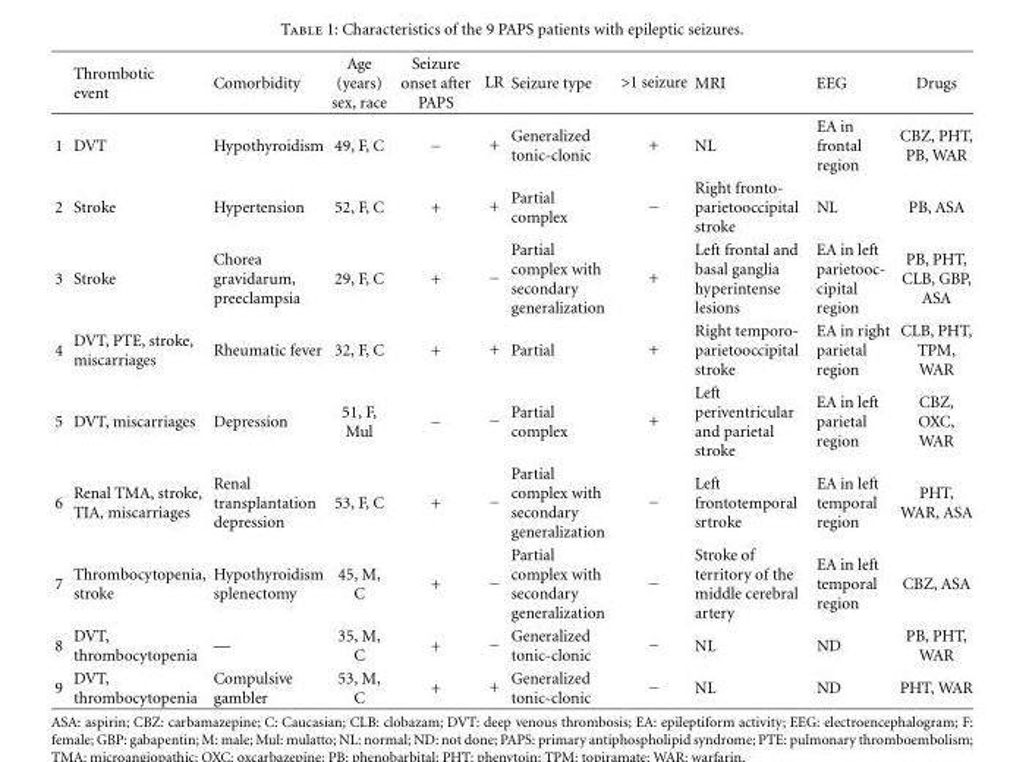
<table><thead><tr><td></td><td>Thrombotic event</td><td>Comorbidity</td><td>Age (years) sex, race</td><td>Seizure onset after PAPS</td><td>LR</td><td>Seizure type</td><td>&gt;1 seizure</td><td>MRI</td><td>EEG</td><td>Drugs</td></tr></thead><tbody><tr><td>1</td><td>DVT</td><td>Hypothyroidism</td><td>49, F, C</td><td>−</td><td>+</td><td>Generalized tonic-clonic</td><td>+</td><td>NL</td><td>EA in frontal region</td><td>CBZ, PHT, PB, WAR</td></tr><tr><td>2</td><td>Stroke</td><td>Hypertension</td><td>52, F, C</td><td>+</td><td>+</td><td>Partial complex</td><td>−</td><td>Right fronto- parietooccipital stroke</td><td>NL</td><td>PB, ASA</td></tr><tr><td>3</td><td>Stroke</td><td>Chorea gravidarum, preeclampsia</td><td>29, F, C</td><td>+</td><td>−</td><td>Partial complex with secondary generalization</td><td>+</td><td>Left frontal and basal ganglia hyperintense lesions</td><td>EA in left parietooc- cipital region</td><td>PB, PHT, CLB, GBP, ASA</td></tr><tr><td>4</td><td>DVT, PTE, stroke, miscarriages</td><td>Rheumatic fever</td><td>32, F, C</td><td>+</td><td>+</td><td>Partial</td><td>+</td><td>Right temporo- parietooccipital stroke</td><td>EA in right parietal region</td><td>CLB, PHT, TPM, WAR</td></tr><tr><td>5</td><td>DVT, miscarriages</td><td>Depression</td><td>51, F, Mul</td><td>−</td><td>−</td><td>Partial complex</td><td>+</td><td>Left periventricular and parietal stroke</td><td>EA in left parietal region</td><td>CBZ, OXC, WAR</td></tr><tr><td>6</td><td>Renal TMA, stroke, TIA, miscarriages</td><td>Renal transplantation depression</td><td>53, F, C</td><td>+</td><td>−</td><td>Partial complex with secondary generalization</td><td>−</td><td>Left frontotemporal srtroke</td><td>EA in left temporal region</td><td>PHT, WAR, ASA</td></tr><tr><td>7</td><td>Thrombocytopenia, stroke</td><td>Hypothyroidism splenectomy</td><td>45, M, C</td><td>+</td><td>−</td><td>Partial complex with secondary generalization</td><td>−</td><td>Stroke of territory of the middle cerebral artery</td><td>EA in left temporal region</td><td>CBZ, ASA</td></tr><tr><td>8</td><td>DVT, thrombocytopenia</td><td>—</td><td>35, M, C</td><td>+</td><td>−</td><td>Generalized tonic-clonic</td><td>−</td><td>NL</td><td>ND</td><td>PB, PHT, WAR</td></tr><tr><td>9</td><td>DVT, thrombocytopenia</td><td>Compulsive gambler</td><td>53, M, C</td><td>+</td><td>+</td><td>Generalized tonic-clonic</td><td>−</td><td>NL</td><td>ND</td><td>PHT, WAR</td></tr></tbody></table>